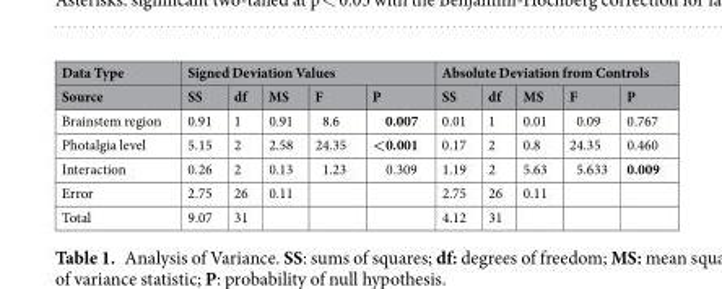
<table><thead><tr><td rowspan="2">Data Type Source</td><td colspan="5">Signed Deviation Values</td><td colspan="5">Absolute Deviation from Controls</td></tr><tr><td>SS</td><td>df</td><td>MS</td><td>F</td><td>P</td><td>SS</td><td>df</td><td>MS</td><td>F</td><td>P</td></tr></thead><tbody><tr><td>Brainstem region</td><td>0.91</td><td>1</td><td>0.91</td><td>8.6</td><td>0.007</td><td>0.01</td><td>1</td><td>0.01</td><td>0.09</td><td>0.767</td></tr><tr><td>Photalgia level</td><td>5.15</td><td>2</td><td>2.58</td><td>24.35</td><td>&lt;0.001</td><td>0.17</td><td>2</td><td>0.8</td><td>24.35</td><td>0.460</td></tr><tr><td>Interaction</td><td>0.26</td><td>2</td><td>0.13</td><td>1.23</td><td>0.309</td><td>1.19</td><td>2</td><td>5.63</td><td>5.633</td><td>0.009</td></tr><tr><td>Error</td><td>2.75</td><td>26</td><td>0.11</td><td></td><td></td><td>2.75</td><td>26</td><td>0.11</td><td></td><td></td></tr><tr><td>Total</td><td>9.07</td><td>31</td><td></td><td></td><td></td><td>4.12</td><td>31</td><td></td><td></td><td></td></tr></tbody></table>